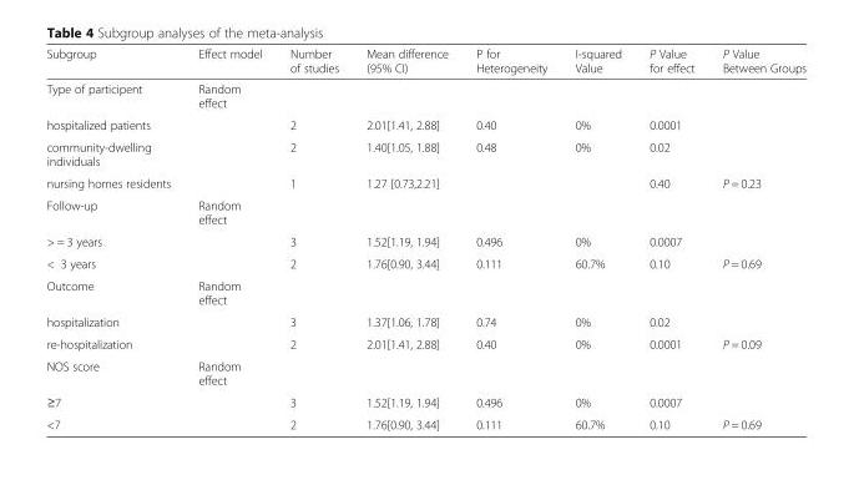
<table><thead><tr><td>Subgroup</td><td>Effect model</td><td>Number of studies</td><td>Mean difference (95% CI)</td><td>P for Heterogeneity</td><td>I-squared Value</td><td>P Value for effect</td><td>P Value Between Groups</td></tr></thead><tbody><tr><td>Type of participent</td><td>Random effect</td><td></td><td></td><td></td><td></td><td></td><td></td></tr><tr><td>hospitalized patients</td><td></td><td>2</td><td>2.01[1.41, 2.88]</td><td>0.40</td><td>0%</td><td>0.0001</td><td></td></tr><tr><td>community-dwelling individuals</td><td></td><td>2</td><td>1.40[1.05, 1.88]</td><td>0.48</td><td>0%</td><td>0.02</td><td></td></tr><tr><td>nursing homes residents</td><td></td><td>1</td><td>1.27 [0.73,2.21]</td><td></td><td></td><td>0.40</td><td>P = 0.23</td></tr><tr><td>Follow-up</td><td>Random effect</td><td></td><td></td><td></td><td></td><td></td><td></td></tr><tr><td>&gt; = 3 years</td><td></td><td>3</td><td>1.52[1.19, 1.94]</td><td>0.496</td><td>0%</td><td>0.0007</td><td></td></tr><tr><td>&lt; 3 years</td><td></td><td>2</td><td>1.76[0.90, 3.44]</td><td>0.111</td><td>60.7%</td><td>0.10</td><td>P = 0.69</td></tr><tr><td>Outcome</td><td>Random effect</td><td></td><td></td><td></td><td></td><td></td><td></td></tr><tr><td>hospitalization</td><td></td><td>3</td><td>1.37[1.06, 1.78]</td><td>0.74</td><td>0%</td><td>0.02</td><td></td></tr><tr><td>re-hospitalization</td><td></td><td>2</td><td>2.01[1.41, 2.88]</td><td>0.40</td><td>0%</td><td>0.0001</td><td>P = 0.09</td></tr><tr><td>NOS score</td><td>Random effect</td><td></td><td></td><td></td><td></td><td></td><td></td></tr><tr><td>≥7</td><td></td><td>3</td><td>1.52[1.19, 1.94]</td><td>0.496</td><td>0%</td><td>0.0007</td><td></td></tr><tr><td>&lt;7</td><td></td><td>2</td><td>1.76[0.90, 3.44]</td><td>0.111</td><td>60.7%</td><td>0.10</td><td>P = 0.69</td></tr></tbody></table>